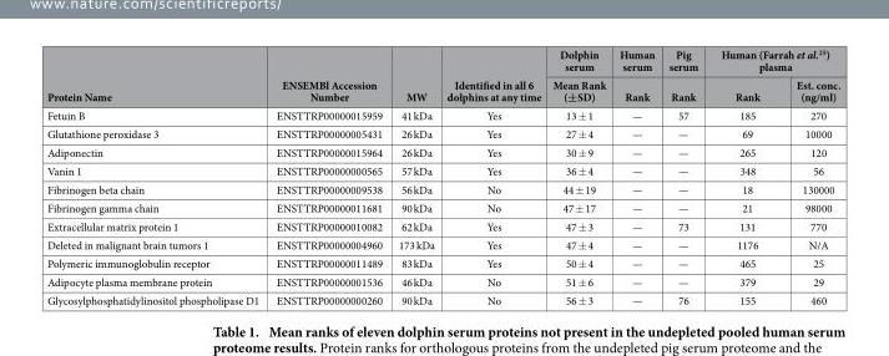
<table><thead><tr><td rowspan="2">Protein Name</td><td rowspan="2">ENSEMBl Accession Number</td><td rowspan="2">MW</td><td rowspan="2">Identified in all 6 dolphins at any time</td><td rowspan="2">Dolphin serum Mean Rank (±SD)</td><td rowspan="2">Human serum Rank</td><td rowspan="2">Pig serum Rank</td><td colspan="2">Human (Farrah et al.<sup>25</sup>) plasma</td></tr><tr><td>Rank</td><td>Est. conc. (ng/ml)</td></tr></thead><tbody><tr><td>Fetuin B</td><td>ENSTTRP00000015959</td><td>41 kDa</td><td>Yes</td><td>13 ± 1</td><td>—</td><td>57</td><td>185</td><td>270</td></tr><tr><td>Glutathione peroxidase 3</td><td>ENSTTRP00000005431</td><td>26 kDa</td><td>Yes</td><td>27 ± 4</td><td>—</td><td>—</td><td>69</td><td>10000</td></tr><tr><td>Adiponectin</td><td>ENSTTRP00000015964</td><td>26 kDa</td><td>Yes</td><td>30 ± 9</td><td>—</td><td>—</td><td>265</td><td>120</td></tr><tr><td>Vanin 1</td><td>ENSTTRP00000000565</td><td>57 kDa</td><td>Yes</td><td>36 ± 4</td><td>—</td><td>—</td><td>348</td><td>56</td></tr><tr><td>Fibrinogen beta chain</td><td>ENSTTRP00000009538</td><td>56 kDa</td><td>No</td><td>44 ± 19</td><td>—</td><td>—</td><td>18</td><td>130000</td></tr><tr><td>Fibrinogen gamma chain</td><td>ENSTTRP00000011681</td><td>90 kDa</td><td>No</td><td>47 ± 17</td><td>—</td><td>—</td><td>21</td><td>98000</td></tr><tr><td>Extracellular matrix protein 1</td><td>ENSTTRP00000010082</td><td>62 kDa</td><td>Yes</td><td>47 ± 3</td><td>—</td><td>73</td><td>131</td><td>770</td></tr><tr><td>Deleted in malignant brain tumors 1</td><td>ENSTTRP00000004960</td><td>173 kDa</td><td>Yes</td><td>47 ± 4</td><td>—</td><td>—</td><td>1176</td><td>N/A</td></tr><tr><td>Polymeric immunoglobulin receptor</td><td>ENSTTRP00000011489</td><td>83 kDa</td><td>Yes</td><td>50 ± 4</td><td>—</td><td>—</td><td>465</td><td>25</td></tr><tr><td>Adipocyte plasma membrane protein</td><td>ENSTTRP00000001536</td><td>46 kDa</td><td>No</td><td>51 ± 6</td><td>—</td><td>—</td><td>379</td><td>29</td></tr><tr><td>Glycosylphosphatidylinositol phospholipase D1</td><td>ENSTTRP00000000260</td><td>90 kDa</td><td>No</td><td>56 ± 3</td><td>—</td><td>76</td><td>155</td><td>460</td></tr></tbody></table>